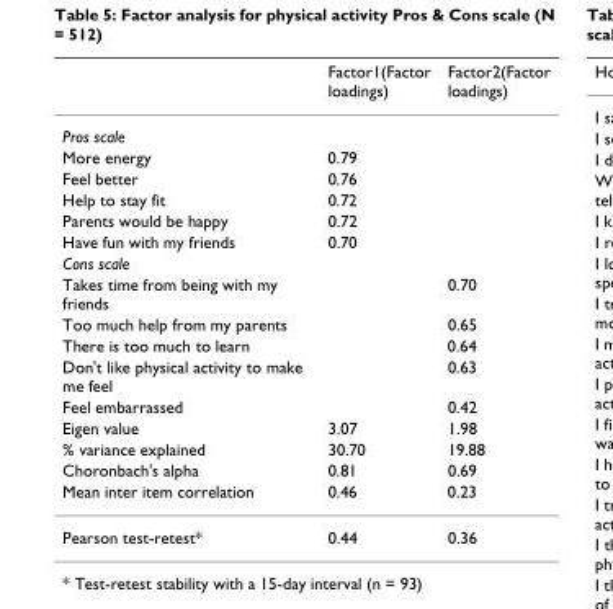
<table><thead><tr><td></td><td>Factor1(Factor loadings)</td><td>Factor2(Factor loadings)</td></tr></thead><tbody><tr><td colspan="3">Pros scale</td></tr><tr><td>More energy</td><td>0.79</td><td></td></tr><tr><td>Feel better</td><td>0.76</td><td></td></tr><tr><td>Help to stay fit</td><td>0.72</td><td></td></tr><tr><td>Parents would be happy</td><td>0.72</td><td></td></tr><tr><td>Have fun with my friends</td><td>0.70</td><td></td></tr><tr><td colspan="3">Cons scale</td></tr><tr><td>Takes time from being with my friends</td><td></td><td>0.70</td></tr><tr><td>Too much help from my parents</td><td></td><td>0.65</td></tr><tr><td>There is too much to learn</td><td></td><td>0.64</td></tr><tr><td>Don&#x27;t like physical activity to make me feel</td><td></td><td>0.63</td></tr><tr><td>Feel embarrassed</td><td></td><td>0.42</td></tr><tr><td>Eigen value</td><td>3.07</td><td>1.98</td></tr><tr><td>% variance explained</td><td>30.70</td><td>19.88</td></tr><tr><td>Choronbach&#x27;s alpha</td><td>0.81</td><td>0.69</td></tr><tr><td>Mean inter item correlation</td><td>0.46</td><td>0.23</td></tr><tr><td>Pearson test-retest*</td><td>0.44</td><td>0.36</td></tr></tbody></table>